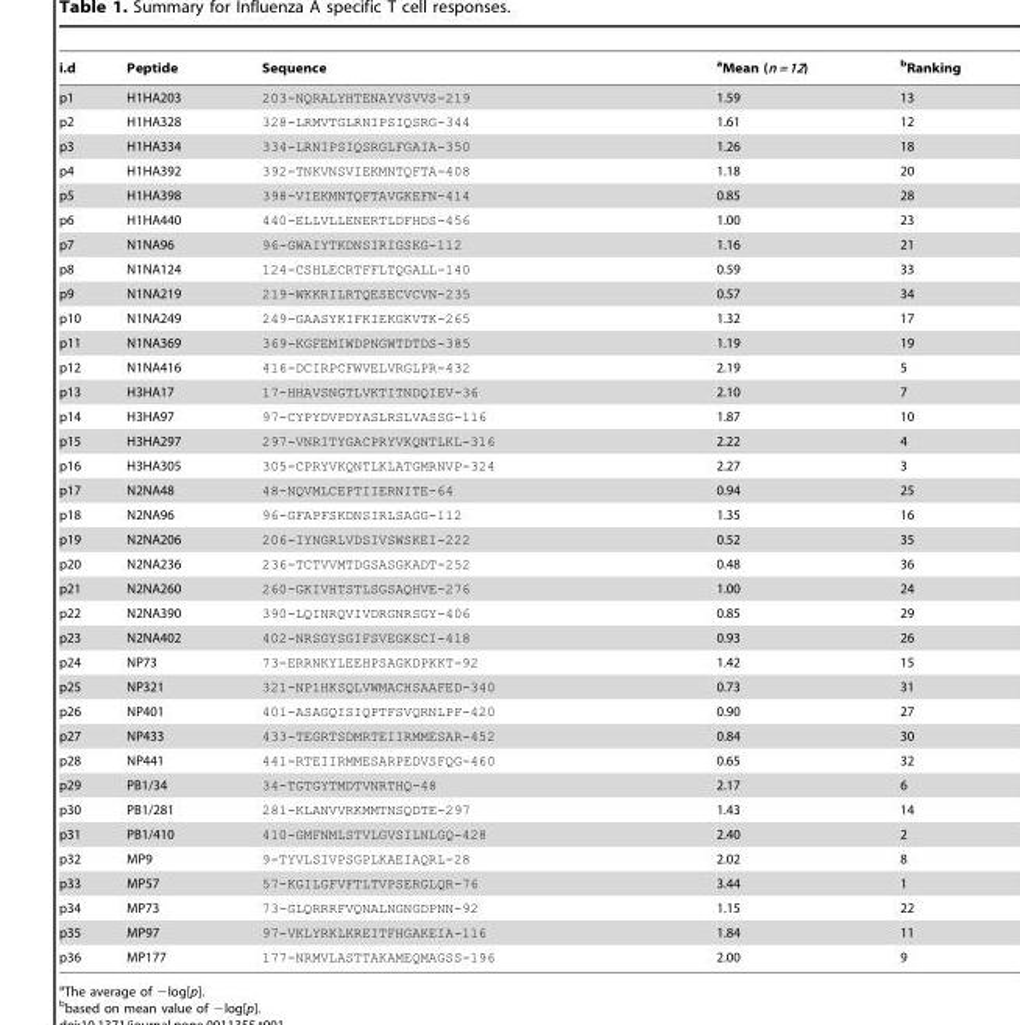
<table><thead><tr><td>i.d</td><td>Peptide</td><td>Sequence</td><td>aMean (n = 12)</td><td>bRanking</td></tr></thead><tbody><tr><td>p1</td><td>H1HA203</td><td>203-NQRALYHTENAYVSVVS-219</td><td>1.59</td><td>13</td></tr><tr><td>p2</td><td>H1HA328</td><td>328-LRMVTGLRNIPSIQSRG-344</td><td>1.61</td><td>12</td></tr><tr><td>p3</td><td>H1HA334</td><td>334-LRNIPSIQSRGLFGAIA-350</td><td>1.26</td><td>18</td></tr><tr><td>p4</td><td>H1HA392</td><td>392-TNKVNSVIEKMNTQFTA-408</td><td>1.18</td><td>20</td></tr><tr><td>p5</td><td>H1HA398</td><td>398-VIEKMNTQFTAVGKEFN-414</td><td>0.85</td><td>28</td></tr><tr><td>p6</td><td>H1HA440</td><td>440-ELLVLLENERTLDFHDS-456</td><td>1.00</td><td>23</td></tr><tr><td>p7</td><td>N1NA96</td><td>96-GWAIYTKDNSIRIGSKG-112</td><td>1.16</td><td>21</td></tr><tr><td>p8</td><td>N1NA124</td><td>124-CSHLECRTFFLTQGALL-140</td><td>0.59</td><td>33</td></tr><tr><td>p9</td><td>N1NA219</td><td>219-WKKRILRTQESECVCVN-235</td><td>0.57</td><td>34</td></tr><tr><td>p10</td><td>N1NA249</td><td>249-GAASYKIFKIEKGKVTK-265</td><td>1.32</td><td>17</td></tr><tr><td>p11</td><td>N1NA369</td><td>369-KGFEMIWDPNGWTDTDS-385</td><td>1.19</td><td>19</td></tr><tr><td>p12</td><td>N1NA416</td><td>416-DCIRPCFWVELVRGLPR-432</td><td>2.19</td><td>5</td></tr><tr><td>p13</td><td>H3HA17</td><td>17-HHAVSNGTLVKTITNDQIEV-36</td><td>2.10</td><td>7</td></tr><tr><td>p14</td><td>H3HA97</td><td>97-CYPYDVPDYASLRSLVASSG-116</td><td>1.87</td><td>10</td></tr><tr><td>p15</td><td>H3HA297</td><td>297-VNRITYGACPRYVKQNTLKL-316</td><td>2.22</td><td>4</td></tr><tr><td>p16</td><td>H3HA305</td><td>305-CPRYVKQNTLKLATGMRNVP-324</td><td>2.27</td><td>3</td></tr><tr><td>p17</td><td>N2NA48</td><td>48-NQVMLCEPTIIERNITE-64</td><td>0.94</td><td>25</td></tr><tr><td>p18</td><td>N2NA96</td><td>96-GFAPFSKDNSIRLSAGG-112</td><td>1.35</td><td>16</td></tr><tr><td>p19</td><td>N2NA206</td><td>206-IYNGRLVDSIVSWSKEI-222</td><td>0.52</td><td>35</td></tr><tr><td>p20</td><td>N2NA236</td><td>236-TCTVVMTDGSASGKADT-252</td><td>0.48</td><td>36</td></tr><tr><td>p21</td><td>N2NA260</td><td>260-GKIVHTSTLSGSAQHVE-276</td><td>1.00</td><td>24</td></tr><tr><td>p22</td><td>N2NA390</td><td>390-LQINRQVIVDRGNRSGY-406</td><td>0.85</td><td>29</td></tr><tr><td>p23</td><td>N2NA402</td><td>402-NRSGYSGIFSVEGKSCI-418</td><td>0.93</td><td>26</td></tr><tr><td>p24</td><td>NP73</td><td>73-ERRNKYLEEHPSAGKDPKKT-92</td><td>1.42</td><td>15</td></tr><tr><td>p25</td><td>NP321</td><td>321-NP1HKSQLVWMACHSAAFED-340</td><td>0.73</td><td>31</td></tr><tr><td>p26</td><td>NP401</td><td>401-ASAGQISIQPTFSVQRNLPF-420</td><td>0.90</td><td>27</td></tr><tr><td>p27</td><td>NP433</td><td>433-TEGRTSDMRTEIIRMMESAR-452</td><td>0.84</td><td>30</td></tr><tr><td>p28</td><td>NP441</td><td>441-RTEIIRMMESARPEDVSFQG-460</td><td>0.65</td><td>32</td></tr><tr><td>p29</td><td>PB1/34</td><td>34-TGTGYTMDTVNRTHQ-48</td><td>2.17</td><td>6</td></tr><tr><td>p30</td><td>PB1/281</td><td>281-KLANVVRKMMTNSQDTE-297</td><td>1.43</td><td>14</td></tr><tr><td>p31</td><td>PB1/410</td><td>410-GMFNMLSTVLGVSILNLGQ-428</td><td>2.40</td><td>2</td></tr><tr><td>p32</td><td>MP9</td><td>9-TYVLSIVPSGPLKAEIAQRL-28</td><td>2.02</td><td>8</td></tr><tr><td>p33</td><td>MP57</td><td>57-KGILGFVFTLTVPSERGLQR-76</td><td>3.44</td><td>1</td></tr><tr><td>p34</td><td>MP73</td><td>73-GLQRRRFVQNALNGNGDPNN-92</td><td>1.15</td><td>22</td></tr><tr><td>p35</td><td>MP97</td><td>97-VKLYRKLKREITFHGAKEIA-116</td><td>1.84</td><td>11</td></tr><tr><td>p36</td><td>MP177</td><td>177-NRMVLASTTAKAMEQMAGSS-196</td><td>2.00</td><td>9</td></tr></tbody></table>